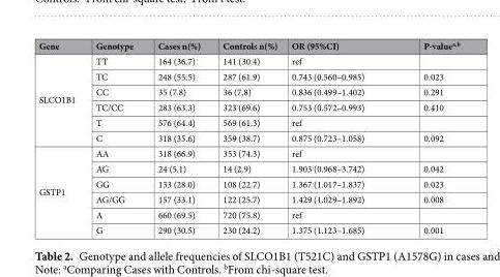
<table><thead><tr><td>Gene</td><td>Genotype</td><td>Cases n(%)</td><td>Controls n(%)</td><td>OR (95%CI)</td><td>P-value<sup>a,b</sup></td></tr></thead><tbody><tr><td rowspan="6">SLCO1B1</td><td>TT</td><td>164 (36.7)</td><td>141 (30.4)</td><td>ref</td><td></td></tr><tr><td>TC</td><td>248 (55.5)</td><td>287 (61.9)</td><td>0.743 (0.560–0.985)</td><td>0.023</td></tr><tr><td>CC</td><td>35 (7.8)</td><td>36 (7.8)</td><td>0.836 (0.499–1.402)</td><td>0.291</td></tr><tr><td>TC/CC</td><td>283 (63.3)</td><td>323 (69.6)</td><td>0.753 (0.572–0.993)</td><td>0.410</td></tr><tr><td>T</td><td>576 (64.4)</td><td>569 (61.3)</td><td>ref</td><td></td></tr><tr><td>C</td><td>318 (35.6)</td><td>359 (38.7)</td><td>0.875 (0.723–1.058)</td><td>0.092</td></tr><tr><td rowspan="6">GSTP1</td><td>AA</td><td>318 (66.9)</td><td>353 (74.3)</td><td>ref</td><td></td></tr><tr><td>AG</td><td>24 (5.1)</td><td>14 (2.9)</td><td>1.903 (0.968–3.742)</td><td>0.042</td></tr><tr><td>GG</td><td>133 (28.0)</td><td>108 (22.7)</td><td>1.367 (1.017–1.837)</td><td>0.023</td></tr><tr><td>AG/GG</td><td>157 (33.1)</td><td>122 (25.7)</td><td>1.429 (1.029–1.892)</td><td>0.008</td></tr><tr><td>A</td><td>660 (69.5)</td><td>720 (75.8)</td><td>ref</td><td></td></tr><tr><td>G</td><td>290 (30.5)</td><td>230 (24.2)</td><td>1.375 (1.123–1.685)</td><td>0.001</td></tr></tbody></table>